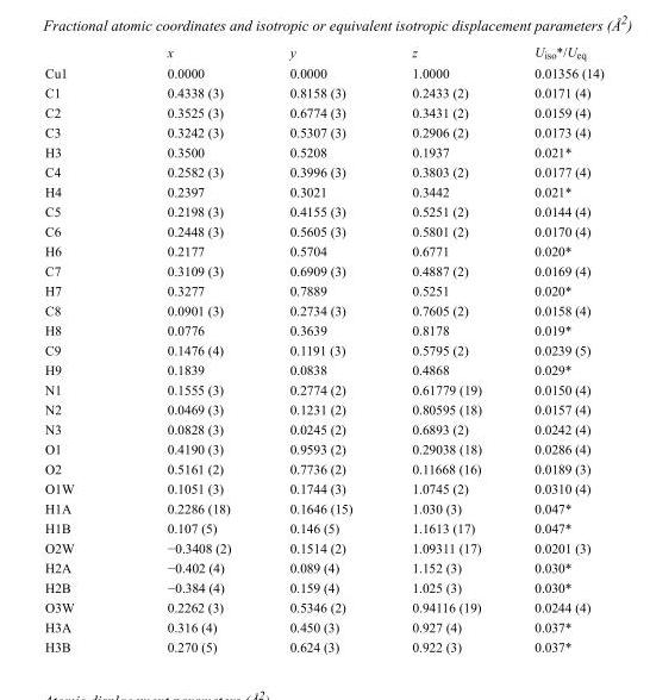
<table><thead><tr><td></td><td>x</td><td>y</td><td>z</td><td>U<sub>iso</sub>*/U<sub>eq</sub></td></tr></thead><tbody><tr><td>Cu1</td><td>0.0000</td><td>0.0000</td><td>1.0000</td><td>0.01356 (14)</td></tr><tr><td>C1</td><td>0.4338 (3)</td><td>0.8158 (3)</td><td>0.2433 (2)</td><td>0.0171 (4)</td></tr><tr><td>C2</td><td>0.3525 (3)</td><td>0.6774 (3)</td><td>0.3431 (2)</td><td>0.0159 (4)</td></tr><tr><td>C3</td><td>0.3242 (3)</td><td>0.5307 (3)</td><td>0.2906 (2)</td><td>0.0173 (4)</td></tr><tr><td>H3</td><td>0.3500</td><td>0.5208</td><td>0.1937</td><td>0.021*</td></tr><tr><td>C4</td><td>0.2582 (3)</td><td>0.3996 (3)</td><td>0.3803 (2)</td><td>0.0177 (4)</td></tr><tr><td>H4</td><td>0.2397</td><td>0.3021</td><td>0.3442</td><td>0.021*</td></tr><tr><td>C5</td><td>0.2198 (3)</td><td>0.4155 (3)</td><td>0.5251 (2)</td><td>0.0144 (4)</td></tr><tr><td>C6</td><td>0.2448 (3)</td><td>0.5605 (3)</td><td>0.5801 (2)</td><td>0.0170 (4)</td></tr><tr><td>H6</td><td>0.2177</td><td>0.5704</td><td>0.6771</td><td>0.020*</td></tr><tr><td>C7</td><td>0.3109 (3)</td><td>0.6909 (3)</td><td>0.4887 (2)</td><td>0.0169 (4)</td></tr><tr><td>H7</td><td>0.3277</td><td>0.7889</td><td>0.5251</td><td>0.020*</td></tr><tr><td>C8</td><td>0.0901 (3)</td><td>0.2734 (3)</td><td>0.7605 (2)</td><td>0.0158 (4)</td></tr><tr><td>H8</td><td>0.0776</td><td>0.3639</td><td>0.8178</td><td>0.019*</td></tr><tr><td>C9</td><td>0.1476 (4)</td><td>0.1191 (3)</td><td>0.5795 (2)</td><td>0.0239 (5)</td></tr><tr><td>H9</td><td>0.1839</td><td>0.0838</td><td>0.4868</td><td>0.029*</td></tr><tr><td>N1</td><td>0.1555 (3)</td><td>0.2774 (2)</td><td>0.61779 (19)</td><td>0.0150 (4)</td></tr><tr><td>N2</td><td>0.0469 (3)</td><td>0.1231 (2)</td><td>0.80595 (18)</td><td>0.0157 (4)</td></tr><tr><td>N3</td><td>0.0828 (3)</td><td>0.0245 (2)</td><td>0.6893 (2)</td><td>0.0242 (4)</td></tr><tr><td>O1</td><td>0.4190 (3)</td><td>0.9593 (2)</td><td>0.29038 (18)</td><td>0.0286 (4)</td></tr><tr><td>O2</td><td>0.5161 (2)</td><td>0.7736 (2)</td><td>0.11668 (16)</td><td>0.0189 (3)</td></tr><tr><td>O1W</td><td>0.1051 (3)</td><td>0.1744 (3)</td><td>1.0745 (2)</td><td>0.0310 (4)</td></tr><tr><td>H1A</td><td>0.2286 (18)</td><td>0.1646 (15)</td><td>1.030 (3)</td><td>0.047*</td></tr><tr><td>H1B</td><td>0.107 (5)</td><td>0.146 (5)</td><td>1.1613 (17)</td><td>0.047*</td></tr><tr><td>O2W</td><td>−0.3408 (2)</td><td>0.1514 (2)</td><td>1.09311 (17)</td><td>0.0201 (3)</td></tr><tr><td>H2A</td><td>−0.402 (4)</td><td>0.089 (4)</td><td>1.152 (3)</td><td>0.030*</td></tr><tr><td>H2B</td><td>−0.384 (4)</td><td>0.159 (4)</td><td>1.025 (3)</td><td>0.030*</td></tr><tr><td>O3W</td><td>0.2262 (3)</td><td>0.5346 (2)</td><td>0.94116 (19)</td><td>0.0244 (4)</td></tr><tr><td>H3A</td><td>0.316 (4)</td><td>0.450 (3)</td><td>0.927 (4)</td><td>0.037*</td></tr><tr><td>H3B</td><td>0.270 (5)</td><td>0.624 (3)</td><td>0.922 (3)</td><td>0.037*</td></tr></tbody></table>